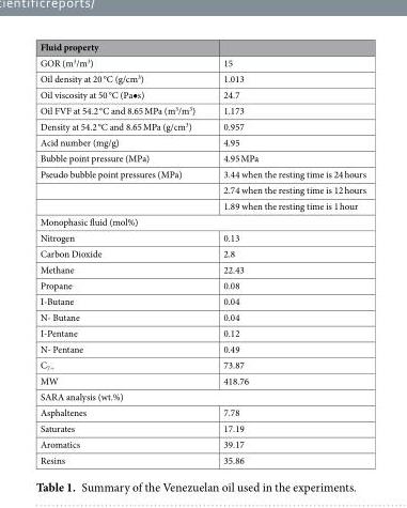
<table><thead><tr><td>Fluid property</td><td></td></tr></thead><tbody><tr><td>GOR (m<sup>3</sup>/m<sup>3</sup>)</td><td>15</td></tr><tr><td>Oil density at 20 °C (g/cm<sup>3</sup>)</td><td>1.013</td></tr><tr><td>Oil viscosity at 50 °C (Pa•s)</td><td>24.7</td></tr><tr><td>Oil FVF at 54.2 °C and 8.65 MPa (m<sup>3</sup>/m<sup>3</sup>)</td><td>1.173</td></tr><tr><td>Density at 54.2 °C and 8.65 MPa (g/cm<sup>3</sup>)</td><td>0.957</td></tr><tr><td>Acid number (mg/g)</td><td>4.95</td></tr><tr><td>Bubble point pressure (MPa)</td><td>4.95 MPa</td></tr><tr><td rowspan="3">Pseudo bubble point pressures (MPa)</td><td>3.44 when the resting time is 24 hours</td></tr><tr><td>2.74 when the resting time is 12 hours</td></tr><tr><td>1.89 when the resting time is 1 hour</td></tr><tr><td colspan="2">Monophasic fluid (mol%)</td></tr><tr><td>Nitrogen</td><td>0.13</td></tr><tr><td>Carbon Dioxide</td><td>2.8</td></tr><tr><td>Methane</td><td>22.43</td></tr><tr><td>Propane</td><td>0.08</td></tr><tr><td>I-Butane</td><td>0.04</td></tr><tr><td>N- Butane</td><td>0.04</td></tr><tr><td>I-Pentane</td><td>0.12</td></tr><tr><td>N- Pentane</td><td>0.49</td></tr><tr><td>C<sub>7+</sub></td><td>73.87</td></tr><tr><td>MW</td><td>418.76</td></tr><tr><td colspan="2">SARA analysis (wt.%)</td></tr><tr><td>Asphaltenes</td><td>7.78</td></tr><tr><td>Saturates</td><td>17.19</td></tr><tr><td>Aromatics</td><td>39.17</td></tr><tr><td>Resins</td><td>35.86</td></tr></tbody></table>